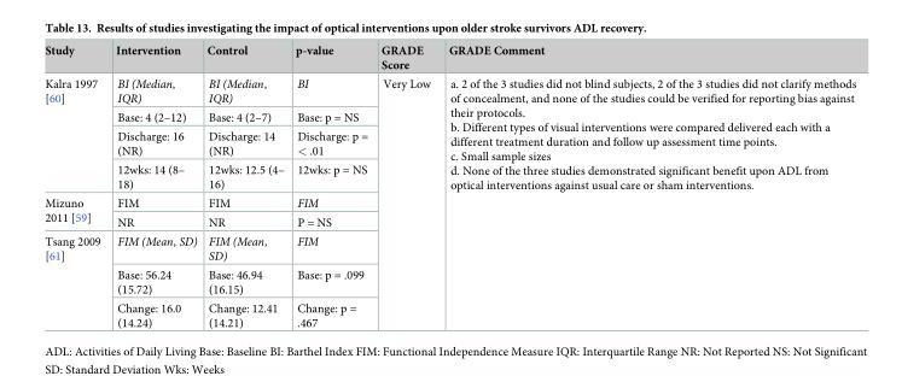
<table><thead><tr><td>Study</td><td>Intervention</td><td>Control</td><td>p-value</td><td>GRADE Score</td><td>GRADE Comment</td></tr></thead><tbody><tr><td rowspan="4">Kalra 1997 [60]</td><td>BI (Median, IQR)</td><td>BI (Median, IQR)</td><td>BI</td><td rowspan="9">Very Low</td><td rowspan="9">a. 2 of the 3 studies did not blind subjects, 2 of the 3 studies did not clarify methods of concealment, and none of the studies could be verified for reporting bias against their protocols. b. Different types of visual interventions were compared delivered each with a different treatment duration and follow up assessment time points. c. Small sample sizes d. None of the three studies demonstrated significant benefit upon ADL from optical interventions against usual care or sham interventions.</td></tr><tr><td>Base: 4 (2–12)</td><td>Base: 4 (2–7)</td><td>Base: p = NS</td></tr><tr><td>Discharge: 16 (NR)</td><td>Discharge: 14 (NR)</td><td>Discharge: p = &lt; .01</td></tr><tr><td>12wks: 14 (8– 18)</td><td>12wks: 12.5 (4– 16)</td><td>12wks: p = NS</td></tr><tr><td rowspan="2">Mizuno 2011 [59]</td><td>FIM</td><td>FIM</td><td>FIM</td></tr><tr><td>NR</td><td>NR</td><td>P = NS</td></tr><tr><td rowspan="3">Tsang 2009 [61]</td><td>FIM (Mean, SD)</td><td>FIM (Mean, SD)</td><td>FIM</td></tr><tr><td>Base: 56.24 (15.72)</td><td>Base: 46.94 (16.15)</td><td>Base: p = .099</td></tr><tr><td>Change: 16.0 (14.24)</td><td>Change: 12.41 (14.21)</td><td>Change: p = .467</td></tr></tbody></table>